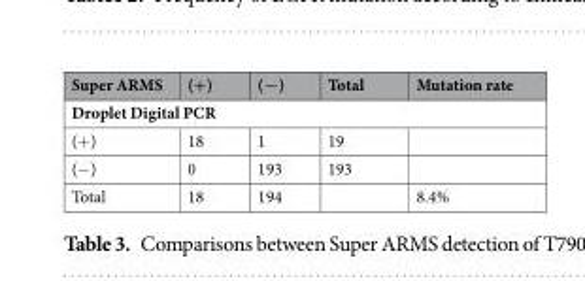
<table><thead><tr><td>Super ARMS</td><td>(+)</td><td>(−)</td><td>Total</td><td>Mutation rate</td></tr></thead><tbody><tr><td colspan="5">Droplet Digital PCR</td></tr><tr><td>(+)</td><td>18</td><td>1</td><td>19</td><td></td></tr><tr><td>(−)</td><td>0</td><td>193</td><td>193</td><td></td></tr><tr><td>Total</td><td>18</td><td>194</td><td></td><td>8.4%</td></tr></tbody></table>